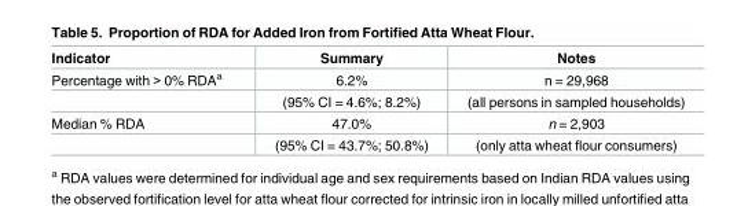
<table><thead><tr><td>Indicator</td><td>Summary</td><td>Notes</td></tr></thead><tbody><tr><td rowspan="2">Percentage with &gt; 0% RDA<sup>a</sup></td><td>6.2%</td><td>n = 29,968</td></tr><tr><td>(95% CI = 4.6%; 8.2%)</td><td>(all persons in sampled households)</td></tr><tr><td rowspan="2">Median % RDA</td><td>47.0%</td><td>n = 2,903</td></tr><tr><td>(95% CI = 43.7%; 50.8%)</td><td>(only atta wheat flour consumers)</td></tr></tbody></table>